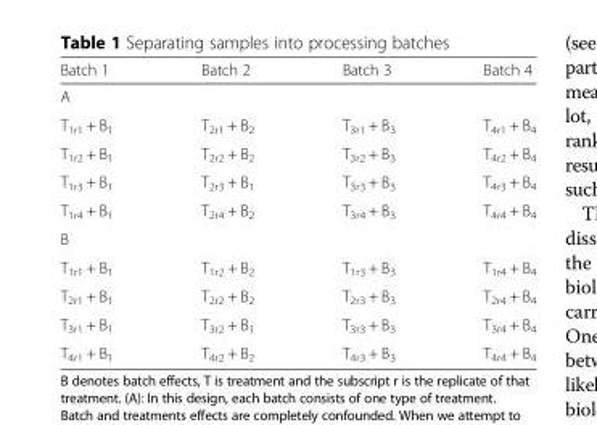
<table><thead><tr><td>Batch 1</td><td>Batch 2</td><td>Batch 3</td><td>Batch 4</td></tr></thead><tbody><tr><td colspan="4">A</td></tr><tr><td>T<sub>1r1</sub> + B<sub>1</sub></td><td>T<sub>2r1</sub> + B<sub>2</sub></td><td>T<sub>3r1</sub> + B<sub>3</sub></td><td>T<sub>4r1</sub> + B<sub>4</sub></td></tr><tr><td>T<sub>1r2</sub> + B<sub>1</sub></td><td>T<sub>2r2</sub> + B<sub>2</sub></td><td>T<sub>3r2</sub> + B<sub>3</sub></td><td>T<sub>4r2</sub> + B<sub>4</sub></td></tr><tr><td>T<sub>1r3</sub> + B<sub>1</sub></td><td>T<sub>2r3</sub> + B<sub>1</sub></td><td>T<sub>3r3</sub> + B<sub>3</sub></td><td>T<sub>4r3</sub> + B<sub>4</sub></td></tr><tr><td>T<sub>1r4</sub> + B<sub>1</sub></td><td>T<sub>2r4</sub> + B<sub>2</sub></td><td>T<sub>3r4</sub> + B<sub>3</sub></td><td>T<sub>4r4</sub> + B<sub>4</sub></td></tr><tr><td colspan="4">B</td></tr><tr><td>T<sub>1r1</sub> + B<sub>1</sub></td><td>T<sub>1r2</sub> + B<sub>2</sub></td><td>T<sub>1r3</sub> + B<sub>3</sub></td><td>T<sub>1r4</sub> + B<sub>4</sub></td></tr><tr><td>T<sub>2r1</sub> + B<sub>1</sub></td><td>T<sub>2r2</sub> + B<sub>2</sub></td><td>T<sub>2r3</sub> + B<sub>3</sub></td><td>T<sub>2r4</sub> + B<sub>4</sub></td></tr><tr><td>T<sub>3r1</sub> + B<sub>1</sub></td><td>T<sub>3r2</sub> + B<sub>1</sub></td><td>T<sub>3r3</sub> + B<sub>3</sub></td><td>T<sub>3r4</sub> + B<sub>4</sub></td></tr><tr><td>T<sub>4r1</sub> + B<sub>1</sub></td><td>T<sub>4r2</sub> + B<sub>2</sub></td><td>T<sub>4r3</sub> + B<sub>3</sub></td><td>T<sub>4r4</sub> + B<sub>4</sub></td></tr></tbody></table>